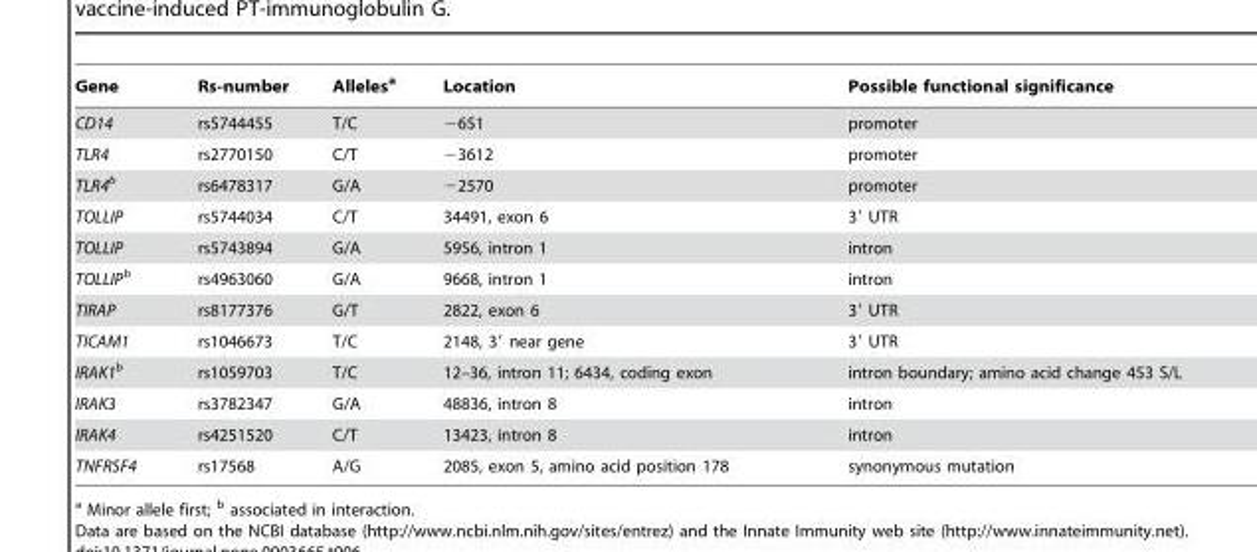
<table><thead><tr><td>Gene</td><td>Rs-number</td><td>Alleles<sup>a</sup></td><td>Location</td><td>Possible functional significance</td></tr></thead><tbody><tr><td>CD14</td><td>rs5744455</td><td>T/C</td><td>−651</td><td>promoter</td></tr><tr><td>TLR4</td><td>rs2770150</td><td>C/T</td><td>−3612</td><td>promoter</td></tr><tr><td>TLR4b</td><td>rs6478317</td><td>G/A</td><td>−2570</td><td>promoter</td></tr><tr><td>TOLLIP</td><td>rs5744034</td><td>C/T</td><td>34491, exon 6</td><td>3′ UTR</td></tr><tr><td>TOLLIP</td><td>rs5743894</td><td>G/A</td><td>5956, intron 1</td><td>intron</td></tr><tr><td>TOLLIPb</td><td>rs4963060</td><td>G/A</td><td>9668, intron 1</td><td>intron</td></tr><tr><td>TIRAP</td><td>rs8177376</td><td>G/T</td><td>2822, exon 6</td><td>3′ UTR</td></tr><tr><td>TICAM1</td><td>rs1046673</td><td>T/C</td><td>2148, 3′ near gene</td><td>3′ UTR</td></tr><tr><td>IRAK1b</td><td>rs1059703</td><td>T/C</td><td>12–36, intron 11; 6434, coding exon</td><td>intron boundary; amino acid change 453 S/L</td></tr><tr><td>IRAK3</td><td>rs3782347</td><td>G/A</td><td>48836, intron 8</td><td>intron</td></tr><tr><td>IRAK4</td><td>rs4251520</td><td>C/T</td><td>13423, intron 8</td><td>intron</td></tr><tr><td>TNFRSF4</td><td>rs17568</td><td>A/G</td><td>2085, exon 5, amino acid position 178</td><td>synonymous mutation</td></tr></tbody></table>